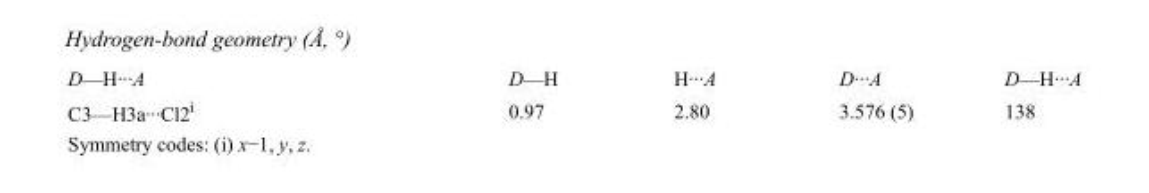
<table><tbody><tr><td>D—H···A</td><td>D—H</td><td>H···A</td><td>D···A</td><td>D—H···A</td></tr><tr><td>C3—H3a···Cl2<sup>i</sup></td><td>0.97</td><td>2.80</td><td>3.576 (5)</td><td>138</td></tr></tbody></table>